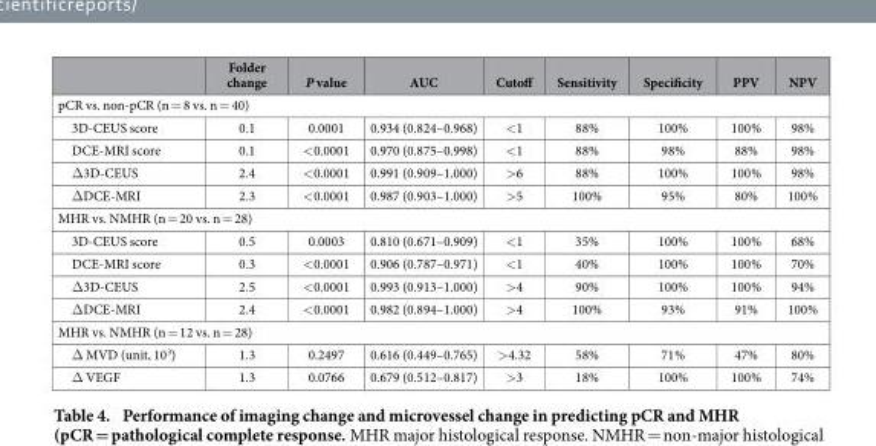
<table><thead><tr><td></td><td>Folder change</td><td>P value</td><td>AUC</td><td>Cutoff</td><td>Sensitivity</td><td>Specificity</td><td>PPV</td><td>NPV</td></tr></thead><tbody><tr><td colspan="9">pCR vs. non-pCR (n = 8 vs. n = 40)</td></tr><tr><td>3D-CEUS score</td><td>0.1</td><td>0.0001</td><td>0.934 (0.824–0.968)</td><td>&lt; 1</td><td>88%</td><td>100%</td><td>100%</td><td>98%</td></tr><tr><td>DCE-MRI score</td><td>0.1</td><td>&lt; 0.0001</td><td>0.970 (0.875–0.998)</td><td>&lt; 1</td><td>88%</td><td>98%</td><td>88%</td><td>98%</td></tr><tr><td>Δ 3D-CEUS</td><td>2.4</td><td>&lt; 0.0001</td><td>0.991 (0.909–1.000)</td><td>&gt; 6</td><td>88%</td><td>100%</td><td>100%</td><td>98%</td></tr><tr><td>Δ DCE-MRI</td><td>2.3</td><td>&lt; 0.0001</td><td>0.987 (0.903–1.000)</td><td>&gt; 5</td><td>100%</td><td>95%</td><td>80%</td><td>100%</td></tr><tr><td colspan="9">MHR vs. NMHR (n = 20 vs. n = 28)</td></tr><tr><td>3D-CEUS score</td><td>0.5</td><td>0.0003</td><td>0.810 (0.671–0.909)</td><td>&lt; 1</td><td>35%</td><td>100%</td><td>100%</td><td>68%</td></tr><tr><td>DCE-MRI score</td><td>0.3</td><td>&lt; 0.0001</td><td>0.906 (0.787–0.971)</td><td>&lt; 1</td><td>40%</td><td>100%</td><td>100%</td><td>70%</td></tr><tr><td>Δ 3D-CEUS</td><td>2.5</td><td>&lt; 0.0001</td><td>0.993 (0.913–1.000)</td><td>&gt; 4</td><td>90%</td><td>100%</td><td>100%</td><td>94%</td></tr><tr><td>Δ DCE-MRI</td><td>2.4</td><td>&lt; 0.0001</td><td>0.982 (0.894–1.000)</td><td>&gt; 4</td><td>100%</td><td>93%</td><td>91%</td><td>100%</td></tr><tr><td colspan="9">MHR vs. NMHR (n = 12 vs. n = 28)</td></tr><tr><td>Δ MVD (unit, 10<sup>3</sup>)</td><td>1.3</td><td>0.2497</td><td>0.616 (0.449–0.765)</td><td>&gt; 4.32</td><td>58%</td><td>71%</td><td>47%</td><td>80%</td></tr><tr><td>Δ VEGF</td><td>1.3</td><td>0.0766</td><td>0.679 (0.512–0.817)</td><td>&gt; 3</td><td>18%</td><td>100%</td><td>100%</td><td>74%</td></tr></tbody></table>